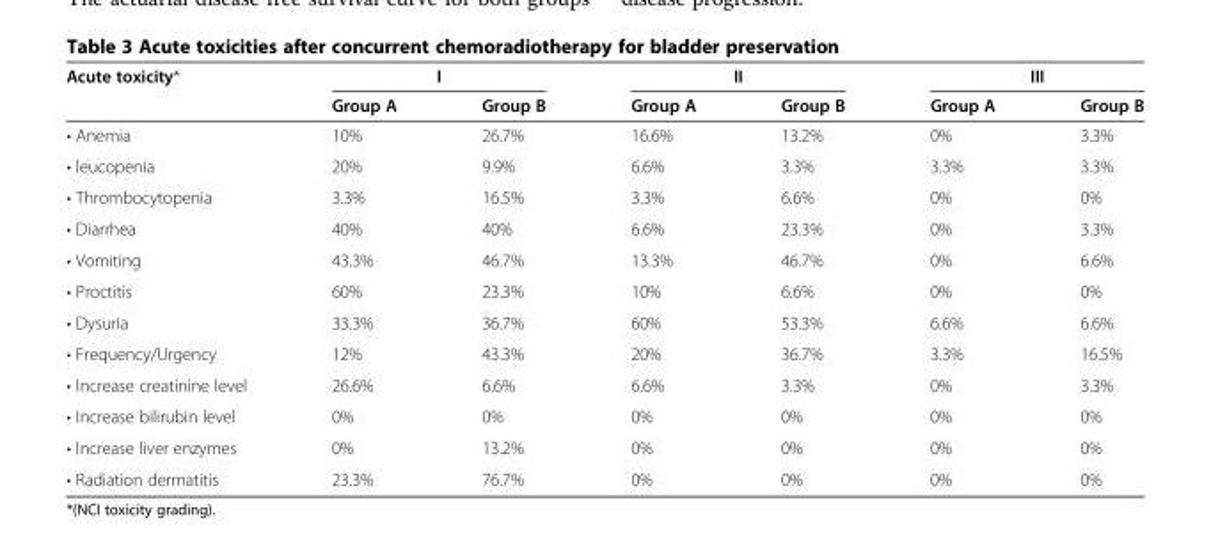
<table><thead><tr><td rowspan="2">Acute toxicity*</td><td rowspan="2">I Group A</td><td rowspan="2">Group B</td><td rowspan="2">II Group A</td><td rowspan="2">Group B</td><td rowspan="2">III Group A</td><td rowspan="2">Group B</td></tr><tr></tr></thead><tbody><tr><td>• Anemia</td><td>10%</td><td>26.7%</td><td>16.6%</td><td>13.2%</td><td>0%</td><td>3.3%</td></tr><tr><td>• leucopenia</td><td>20%</td><td>9.9%</td><td>6.6%</td><td>3.3%</td><td>3.3%</td><td>3.3%</td></tr><tr><td>• Thrombocytopenia</td><td>3.3%</td><td>16.5%</td><td>3.3%</td><td>6.6%</td><td>0%</td><td>0%</td></tr><tr><td>• Diarrhea</td><td>40%</td><td>40%</td><td>6.6%</td><td>23.3%</td><td>0%</td><td>3.3%</td></tr><tr><td>• Vomiting</td><td>43.3%</td><td>46.7%</td><td>13.3%</td><td>46.7%</td><td>0%</td><td>6.6%</td></tr><tr><td>• Proctitis</td><td>60%</td><td>23.3%</td><td>10%</td><td>6.6%</td><td>0%</td><td>0%</td></tr><tr><td>• Dysuria</td><td>33.3%</td><td>36.7%</td><td>60%</td><td>53.3%</td><td>6.6%</td><td>6.6%</td></tr><tr><td>• Frequency/Urgency</td><td>12%</td><td>43.3%</td><td>20%</td><td>36.7%</td><td>3.3%</td><td>16.5%</td></tr><tr><td>• Increase creatinine level</td><td>26.6%</td><td>6.6%</td><td>6.6%</td><td>3.3%</td><td>0%</td><td>3.3%</td></tr><tr><td>• Increase bilirubin level</td><td>0%</td><td>0%</td><td>0%</td><td>0%</td><td>0%</td><td>0%</td></tr><tr><td>• Increase liver enzymes</td><td>0%</td><td>13.2%</td><td>0%</td><td>0%</td><td>0%</td><td>0%</td></tr><tr><td>• Radiation dermatitis</td><td>23.3%</td><td>76.7%</td><td>0%</td><td>0%</td><td>0%</td><td>0%</td></tr></tbody></table>